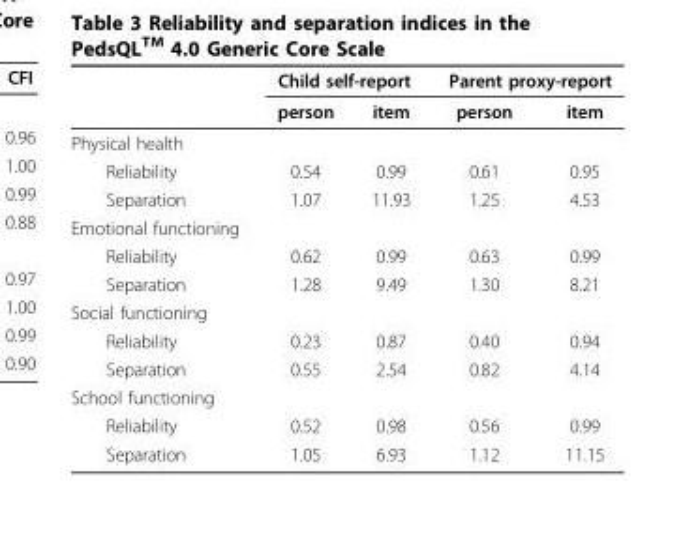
<table><thead><tr><td rowspan="2"></td><td colspan="2">Child self-report</td><td colspan="2">Parent proxy-report</td></tr><tr><td>person</td><td>item</td><td>person</td><td>item</td></tr></thead><tbody><tr><td colspan="5">Physical health</td></tr><tr><td>Reliability</td><td>0.54</td><td>0.99</td><td>0.61</td><td>0.95</td></tr><tr><td>Separation</td><td>1.07</td><td>11.93</td><td>1.25</td><td>4.53</td></tr><tr><td colspan="5">Emotional functioning</td></tr><tr><td>Reliability</td><td>0.62</td><td>0.99</td><td>0.63</td><td>0.99</td></tr><tr><td>Separation</td><td>1.28</td><td>9.49</td><td>1.30</td><td>8.21</td></tr><tr><td colspan="5">Social functioning</td></tr><tr><td>Reliability</td><td>0.23</td><td>0.87</td><td>0.40</td><td>0.94</td></tr><tr><td>Separation</td><td>0.55</td><td>2.54</td><td>0.82</td><td>4.14</td></tr><tr><td colspan="5">School functioning</td></tr><tr><td>Reliability</td><td>0.52</td><td>0.98</td><td>0.56</td><td>0.99</td></tr><tr><td>Separation</td><td>1.05</td><td>6.93</td><td>1.12</td><td>11.15</td></tr></tbody></table>